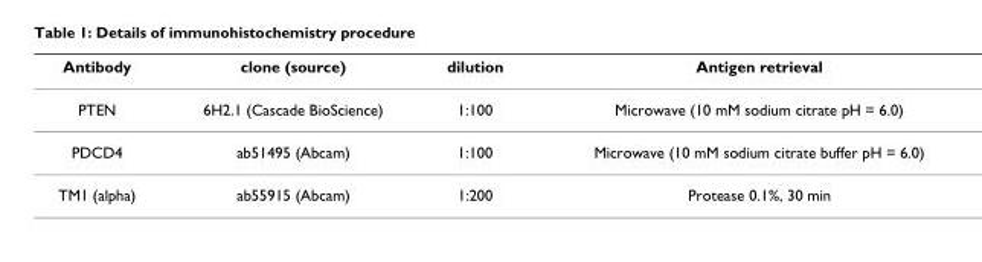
<table><thead><tr><td>Antibody</td><td>clone (source)</td><td>dilution</td><td>Antigen retrieval</td></tr></thead><tbody><tr><td>PTEN</td><td>6H2.1 (Cascade BioScience)</td><td>1:100</td><td>Microwave (10 mM sodium citrate pH = 6.0)</td></tr><tr><td>PDCD4</td><td>ab51495 (Abcam)</td><td>1:100</td><td>Microwave (10 mM sodium citrate buffer pH = 6.0)</td></tr><tr><td>TM1 (alpha)</td><td>ab55915 (Abcam)</td><td>1:200</td><td>Protease 0.1%, 30 min</td></tr></tbody></table>